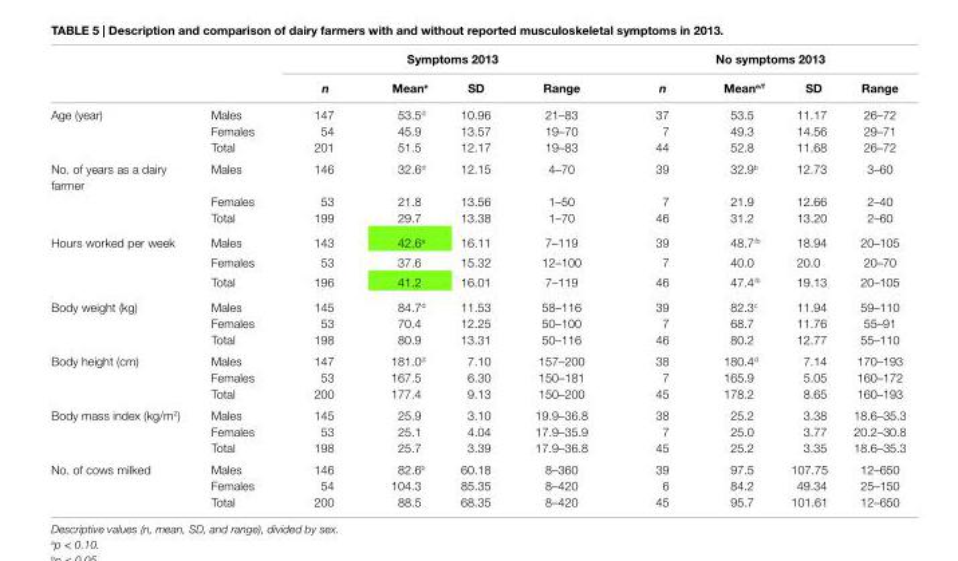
<table><thead><tr><td rowspan="2"></td><td rowspan="2"></td><td colspan="4">symptoms 2013</td><td colspan="4">no symptoms 2013</td></tr><tr><td>n</td><td>Mean<sup>e</sup></td><td>sD</td><td>range</td><td>n</td><td>Mean<sup>e/f</sup></td><td>sD</td><td>range</td></tr></thead><tbody><tr><td rowspan="3">Age (year)</td><td>Males</td><td>147</td><td>53.5<sup>d</sup></td><td>10.96</td><td>21–83</td><td>37</td><td>53.5</td><td>11.17</td><td>26–72</td></tr><tr><td>Females</td><td>54</td><td>45.9</td><td>13.57</td><td>19–70</td><td>7</td><td>49.3</td><td>14.56</td><td>29–71</td></tr><tr><td>Total</td><td>201</td><td>51.5</td><td>12.17</td><td>19–83</td><td>44</td><td>52.8</td><td>11.68</td><td>26–72</td></tr><tr><td rowspan="3">No. of years as a dairy farmer</td><td>Males</td><td>146</td><td>32.6<sup>d</sup></td><td>12.15</td><td>4–70</td><td>39</td><td>32.9<sup>b</sup></td><td>12.73</td><td>3–60</td></tr><tr><td>Females</td><td>53</td><td>21.8</td><td>13.56</td><td>1–50</td><td>7</td><td>21.9</td><td>12.66</td><td>2–40</td></tr><tr><td>Total</td><td>199</td><td>29.7</td><td>13.38</td><td>1–70</td><td>46</td><td>31.2</td><td>13.20</td><td>2–60</td></tr><tr><td rowspan="3">Hours worked per week</td><td>Males</td><td>143</td><td>42.6<sup>a</sup></td><td>16.11</td><td>7–119</td><td>39</td><td>48.7<sup>/b</sup></td><td>18.94</td><td>20–105</td></tr><tr><td>Females</td><td>53</td><td>37.6</td><td>15.32</td><td>12–100</td><td>7</td><td>40.0</td><td>20.0</td><td>20–70</td></tr><tr><td>Total</td><td>196</td><td>41.2</td><td>16.01</td><td>7–119</td><td>46</td><td>47.4<sup>/b</sup></td><td>19.13</td><td>20–105</td></tr><tr><td rowspan="3">Body weight (kg)</td><td>Males</td><td>145</td><td>84.7<sup>d</sup></td><td>11.53</td><td>58–116</td><td>39</td><td>82.3<sup>c</sup></td><td>11.94</td><td>59–110</td></tr><tr><td>Females</td><td>53</td><td>70.4</td><td>12.25</td><td>50–100</td><td>7</td><td>68.7</td><td>11.76</td><td>55–91</td></tr><tr><td>Total</td><td>198</td><td>80.9</td><td>13.31</td><td>50–116</td><td>46</td><td>80.2</td><td>12.77</td><td>55–110</td></tr><tr><td rowspan="3">Body height (cm)</td><td>Males</td><td>147</td><td>181.0<sup>d</sup></td><td>7.10</td><td>157–200</td><td>38</td><td>180.4<sup>d</sup></td><td>7.14</td><td>170–193</td></tr><tr><td>Females</td><td>53</td><td>167.5</td><td>6.30</td><td>150–181</td><td>7</td><td>165.9</td><td>5.05</td><td>160–172</td></tr><tr><td>Total</td><td>200</td><td>177.4</td><td>9.13</td><td>150–200</td><td>45</td><td>178.2</td><td>8.65</td><td>160–193</td></tr><tr><td rowspan="3">Body mass index (kg/m<sup>2</sup>)</td><td>Males</td><td>145</td><td>25.9</td><td>3.10</td><td>19.9–36.8</td><td>38</td><td>25.2</td><td>3.38</td><td>18.6–35.3</td></tr><tr><td>Females</td><td>53</td><td>25.1</td><td>4.04</td><td>17.9–35.9</td><td>7</td><td>25.0</td><td>3.77</td><td>20.2–30.8</td></tr><tr><td>Total</td><td>198</td><td>25.7</td><td>3.39</td><td>17.9–36.8</td><td>45</td><td>25.2</td><td>3.35</td><td>18.6–35.3</td></tr><tr><td rowspan="3">No. of cows milked</td><td>Males</td><td>146</td><td>82.6<sup>b</sup></td><td>60.18</td><td>8–360</td><td>39</td><td>97.5</td><td>107.75</td><td>12–650</td></tr><tr><td>Females</td><td>54</td><td>104.3</td><td>85.35</td><td>8–420</td><td>6</td><td>84.2</td><td>49.34</td><td>25–150</td></tr><tr><td>Total</td><td>200</td><td>88.5</td><td>68.35</td><td>8–420</td><td>45</td><td>95.7</td><td>101.61</td><td>12–650</td></tr></tbody></table>